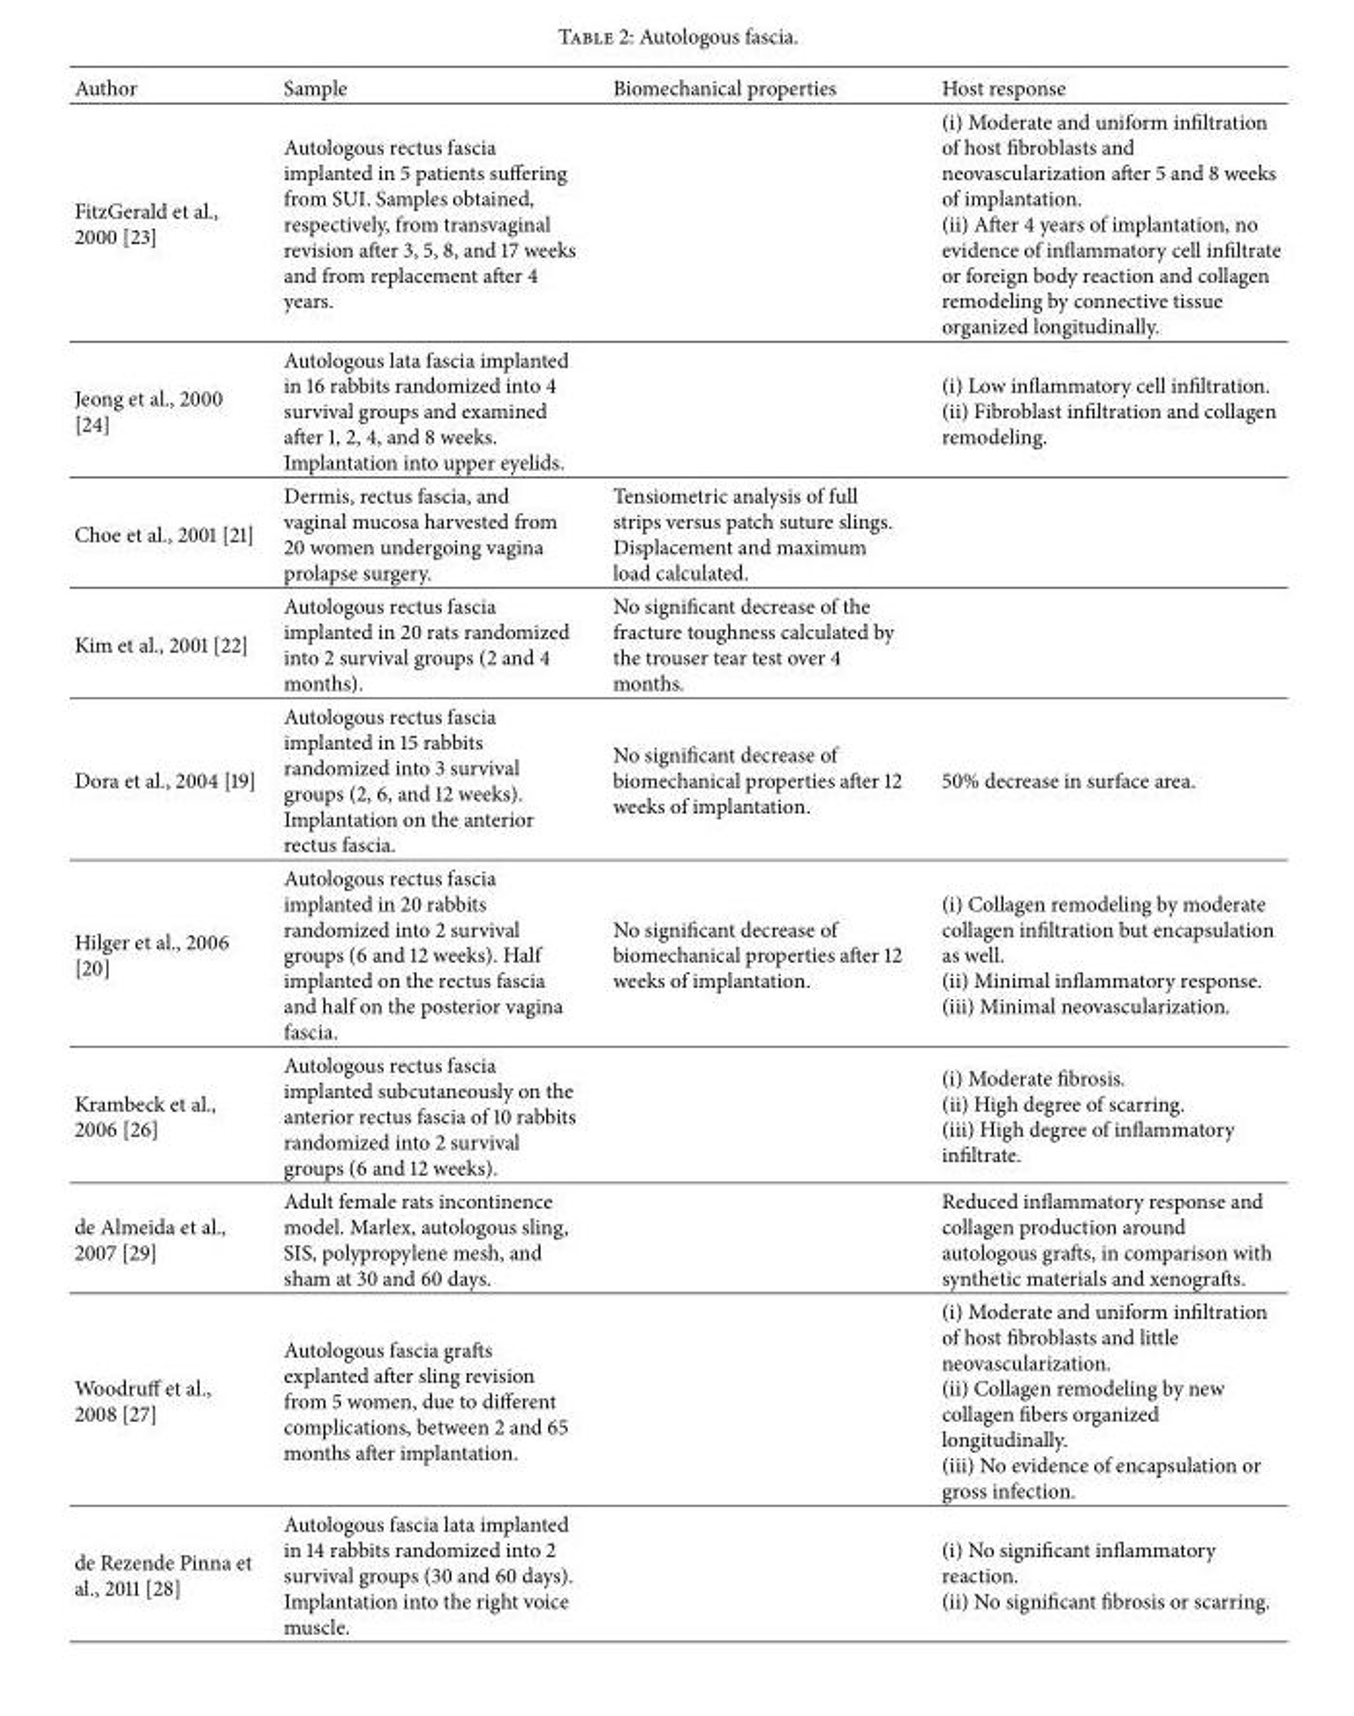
<table><thead><tr><td>Author</td><td>Sample</td><td>Biomechanical properties</td><td>Host response</td></tr></thead><tbody><tr><td>FitzGerald et al., 2000 [23]</td><td>Autologous rectus fascia implanted in 5 patients suffering from SUI. Samples obtained, respectively, from transvaginal revision after 3, 5, 8, and 17 weeks and from replacement after 4 years.</td><td></td><td>(i) Moderate and uniform infiltration of host fibroblasts and neovascularization after 5 and 8 weeks of implantation. (ii) After 4 years of implantation, no evidence of inflammatory cell infiltrate or foreign body reaction and collagen remodeling by connective tissue organized longitudinally.</td></tr><tr><td>Jeong et al., 2000 [24]</td><td>Autologous lata fascia implanted in 16 rabbits randomized into 4 survival groups and examined after 1, 2, 4, and 8 weeks. Implantation into upper eyelids.</td><td></td><td>(i) Low inflammatory cell infiltration. (ii) Fibroblast infiltration and collagen remodeling.</td></tr><tr><td>Choe et al., 2001 [21]</td><td>Dermis, rectus fascia, and vaginal mucosa harvested from 20 women undergoing vagina prolapse surgery.</td><td>Tensiometric analysis of full strips versus patch suture slings. Displacement and maximum load calculated.</td><td></td></tr><tr><td>Kim et al., 2001 [22]</td><td>Autologous rectus fascia implanted in 20 rats randomized into 2 survival groups (2 and 4 months).</td><td>No significant decrease of the fracture toughness calculated by the trouser tear test over 4 months.</td><td></td></tr><tr><td>Dora et al., 2004 [19]</td><td>Autologous rectus fascia implanted in 15 rabbits randomized into 3 survival groups (2, 6, and 12 weeks). Implantation on the anterior rectus fascia.</td><td>No significant decrease of biomechanical properties after 12 weeks of implantation.</td><td>50% decrease in surface area.</td></tr><tr><td>Hilger et al., 2006 [20]</td><td>Autologous rectus fascia implanted in 20 rabbits randomized into 2 survival groups (6 and 12 weeks). Half implanted on the rectus fascia and half on the posterior vagina fascia.</td><td>No significant decrease of biomechanical properties after 12 weeks of implantation.</td><td>(i) Collagen remodeling by moderate collagen infiltration but encapsulation as well. (ii) Minimal inflammatory response. (iii) Minimal neovascularization.</td></tr><tr><td>Krambeck et al., 2006 [26]</td><td>Autologous rectus fascia implanted subcutaneously on the anterior rectus fascia of 10 rabbits randomized into 2 survival groups (6 and 12 weeks).</td><td></td><td>(i) Moderate fibrosis. (ii) High degree of scarring. (iii) High degree of inflammatory infiltrate.</td></tr><tr><td>de Almeida et al., 2007 [29]</td><td>Adult female rats incontinence model. Marlex, autologous sling, SIS, polypropylene mesh, and sham at 30 and 60 days.</td><td></td><td>Reduced inflammatory response and collagen production around autologous grafts, in comparison with synthetic materials and xenografts.</td></tr><tr><td>Woodruff et al., 2008 [27]</td><td>Autologous fascia grafts explanted after sling revision from 5 women, due to different complications, between 2 and 65 months after implantation.</td><td></td><td>(i) Moderate and uniform infiltration of host fibroblasts and little neovascularization. (ii) Collagen remodeling by new collagen fibers organized longitudinally. (iii) No evidence of encapsulation or gross infection.</td></tr><tr><td>de Rezende Pinna et al., 2011 [28]</td><td>Autologous fascia lata implanted in 14 rabbits randomized into 2 survival groups (30 and 60 days). Implantation into the right voice muscle.</td><td></td><td>(i) No significant inflammatory reaction. (ii) No significant fibrosis or scarring.</td></tr></tbody></table>